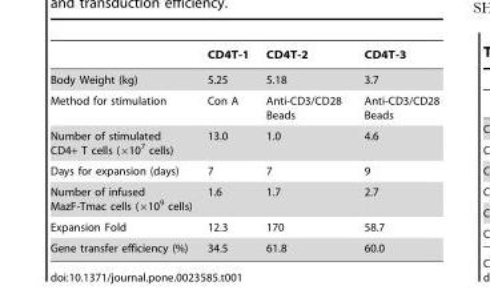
<table><thead><tr><td></td><td>CD4T-1</td><td>CD4T-2</td><td>CD4T-3</td></tr></thead><tbody><tr><td>Body Weight (kg)</td><td>5.25</td><td>5.18</td><td>3.7</td></tr><tr><td>Method for stimulation</td><td>Con A</td><td>Anti-CD3/CD28 Beads</td><td>Anti-CD3/CD28 Beads</td></tr><tr><td>Number of stimulated CD4+ T cells (×10<sup>7</sup> cells)</td><td>13.0</td><td>1.0</td><td>4.6</td></tr><tr><td>Days for expansion (days)</td><td>7</td><td>7</td><td>9</td></tr><tr><td>Number of infused MazF-Tmac cells (×10<sup>9</sup> cells)</td><td>1.6</td><td>1.7</td><td>2.7</td></tr><tr><td>Expansion Fold</td><td>12.3</td><td>170</td><td>58.7</td></tr><tr><td>Gene transfer efficiency (%)</td><td>34.5</td><td>61.8</td><td>60.0</td></tr></tbody></table>